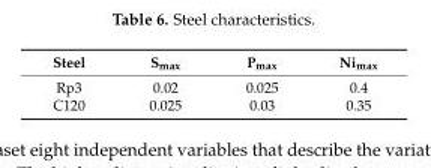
<table><thead><tr><td>Steel</td><td>S<sub>max</sub></td><td>P<sub>max</sub></td><td>Ni<sub>max</sub></td></tr></thead><tbody><tr><td>Rp3</td><td>0.02</td><td>0.025</td><td>0.4</td></tr><tr><td>C120</td><td>0.025</td><td>0.03</td><td>0.35</td></tr></tbody></table>